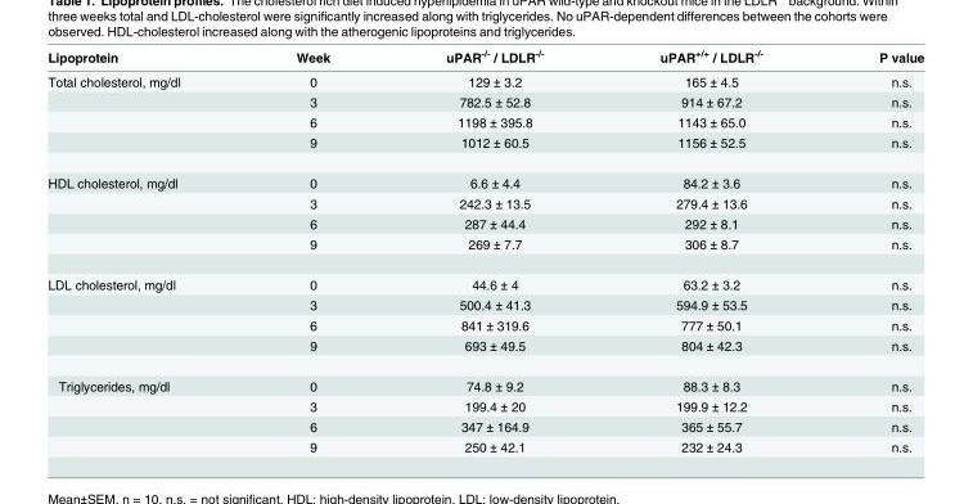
<table><thead><tr><td>Lipoprotein</td><td>Week</td><td>uPAR<sup>-/-</sup> / LDLR<sup>-/-</sup></td><td>uPAR<sup>+/+</sup> / LDLR<sup>-/-</sup></td><td>P value</td></tr></thead><tbody><tr><td rowspan="4">Total cholesterol, mg/dl</td><td>0</td><td>129 ± 3.2</td><td>165 ± 4.5</td><td>n.s.</td></tr><tr><td>3</td><td>782.5 ± 52.8</td><td>914 ± 67.2</td><td>n.s.</td></tr><tr><td>6</td><td>1198 ± 395.8</td><td>1143 ± 65.0</td><td>n.s.</td></tr><tr><td>9</td><td>1012 ± 60.5</td><td>1156 ± 52.5</td><td>n.s.</td></tr><tr><td rowspan="4">HDL cholesterol, mg/dl</td><td>0</td><td>6.6 ± 4.4</td><td>84.2 ± 3.6</td><td>n.s.</td></tr><tr><td>3</td><td>242.3 ± 13.5</td><td>279.4 ± 13.6</td><td>n.s.</td></tr><tr><td>6</td><td>287 ± 44.4</td><td>292 ± 8.1</td><td>n.s.</td></tr><tr><td>9</td><td>269 ± 7.7</td><td>306 ± 8.7</td><td>n.s.</td></tr><tr><td rowspan="4">LDL cholesterol, mg/dl</td><td>0</td><td>44.6 ± 4</td><td>63.2 ± 3.2</td><td>n.s.</td></tr><tr><td>3</td><td>500.4 ± 41.3</td><td>594.9 ± 53.5</td><td>n.s.</td></tr><tr><td>6</td><td>841 ± 319.6</td><td>777 ± 50.1</td><td>n.s.</td></tr><tr><td>9</td><td>693 ± 49.5</td><td>804 ± 42.3</td><td>n.s.</td></tr><tr><td rowspan="4">Triglycerides, mg/dl</td><td>0</td><td>74.8 ± 9.2</td><td>88.3 ± 8.3</td><td>n.s.</td></tr><tr><td>3</td><td>199.4 ± 20</td><td>199.9 ± 12.2</td><td>n.s.</td></tr><tr><td>6</td><td>347 ± 164.9</td><td>365 ± 55.7</td><td>n.s.</td></tr><tr><td>9</td><td>250 ± 42.1</td><td>232 ± 24.3</td><td>n.s.</td></tr></tbody></table>